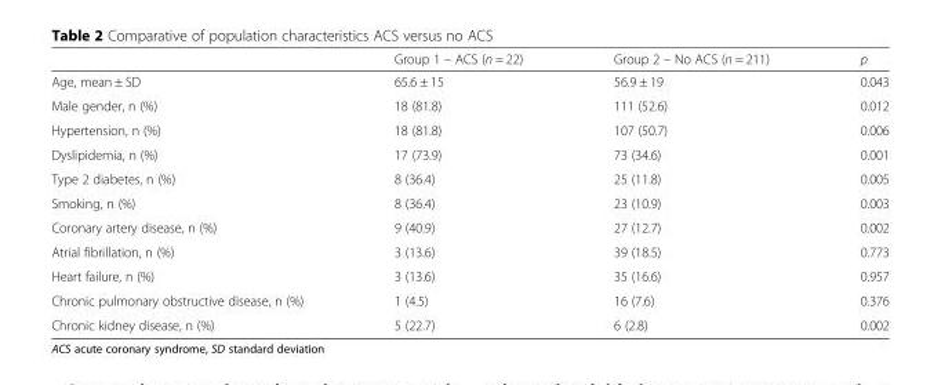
<table><thead><tr><td></td><td>Group 1 – ACS (n = 22)</td><td>Group 2 – No ACS (n = 211)</td><td>p</td></tr></thead><tbody><tr><td>Age, mean ± SD</td><td>65.6 ± 15</td><td>56.9 ± 19</td><td>0.043</td></tr><tr><td>Male gender, n (%)</td><td>18 (81.8)</td><td>111 (52.6)</td><td>0.012</td></tr><tr><td>Hypertension, n (%)</td><td>18 (81.8)</td><td>107 (50.7)</td><td>0.006</td></tr><tr><td>Dyslipidemia, n (%)</td><td>17 (73.9)</td><td>73 (34.6)</td><td>0.001</td></tr><tr><td>Type 2 diabetes, n (%)</td><td>8 (36.4)</td><td>25 (11.8)</td><td>0.005</td></tr><tr><td>Smoking, n (%)</td><td>8 (36.4)</td><td>23 (10.9)</td><td>0.003</td></tr><tr><td>Coronary artery disease, n (%)</td><td>9 (40.9)</td><td>27 (12.7)</td><td>0.002</td></tr><tr><td>Atrial fibrillation, n (%)</td><td>3 (13.6)</td><td>39 (18.5)</td><td>0.773</td></tr><tr><td>Heart failure, n (%)</td><td>3 (13.6)</td><td>35 (16.6)</td><td>0.957</td></tr><tr><td>Chronic pulmonary obstructive disease, n (%)</td><td>1 (4.5)</td><td>16 (7.6)</td><td>0.376</td></tr><tr><td>Chronic kidney disease, n (%)</td><td>5 (22.7)</td><td>6 (2.8)</td><td>0.002</td></tr></tbody></table>